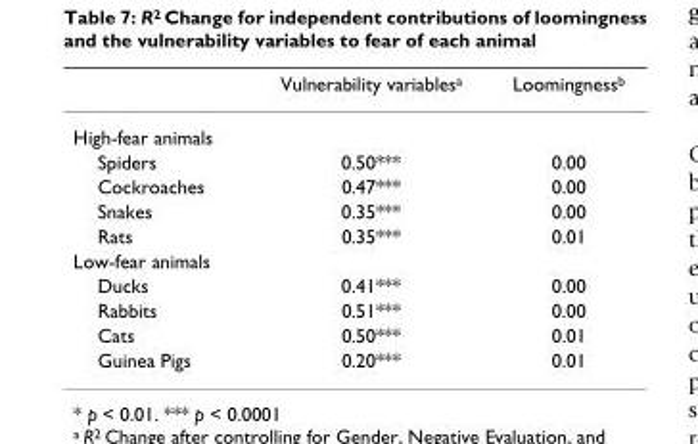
<table><thead><tr><td></td><td>Vulnerability variables<sup>a</sup></td><td>Loomingness<sup>b</sup></td></tr></thead><tbody><tr><td colspan="3">High-fear animals</td></tr><tr><td>Spiders</td><td>0.50***</td><td>0.00</td></tr><tr><td>Cockroaches</td><td>0.47***</td><td>0.00</td></tr><tr><td>Snakes</td><td>0.35***</td><td>0.00</td></tr><tr><td>Rats</td><td>0.35***</td><td>0.01</td></tr><tr><td colspan="3">Low-fear animals</td></tr><tr><td>Ducks</td><td>0.41***</td><td>0.00</td></tr><tr><td>Rabbits</td><td>0.51***</td><td>0.00</td></tr><tr><td>Cats</td><td>0.50***</td><td>0.01</td></tr><tr><td>Guinea Pigs</td><td>0.20***</td><td>0.01</td></tr></tbody></table>